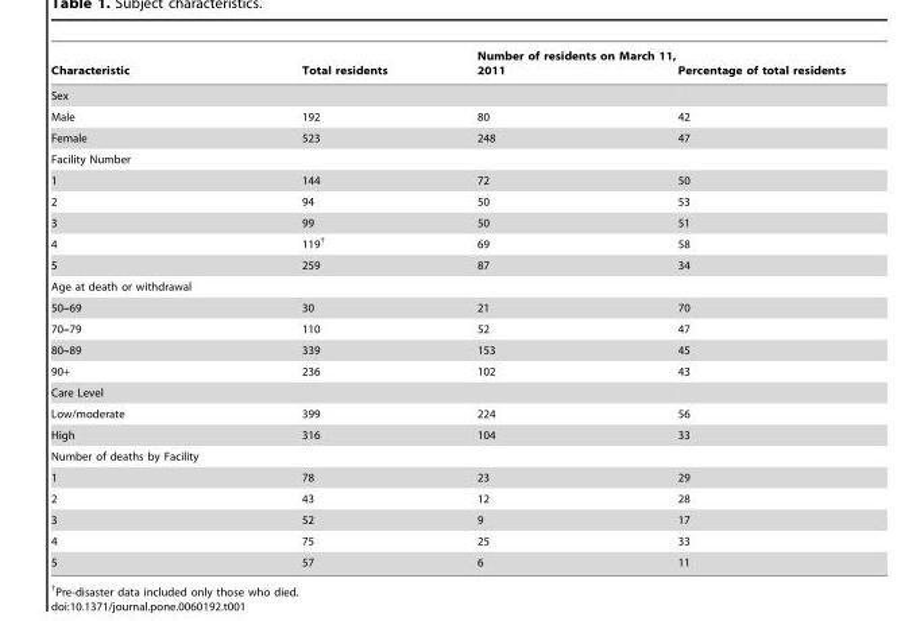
<table><thead><tr><td>Characteristic</td><td>Total residents</td><td>Number of residents on March 11, 2011</td><td>Percentage of total residents</td></tr></thead><tbody><tr><td colspan="4">Sex</td></tr><tr><td>Male</td><td>192</td><td>80</td><td>42</td></tr><tr><td>Female</td><td>523</td><td>248</td><td>47</td></tr><tr><td colspan="4">Facility Number</td></tr><tr><td>1</td><td>144</td><td>72</td><td>50</td></tr><tr><td>2</td><td>94</td><td>50</td><td>53</td></tr><tr><td>3</td><td>99</td><td>50</td><td>51</td></tr><tr><td>4</td><td>119†</td><td>69</td><td>58</td></tr><tr><td>5</td><td>259</td><td>87</td><td>34</td></tr><tr><td colspan="4">Age at death or withdrawal</td></tr><tr><td>50–69</td><td>30</td><td>21</td><td>70</td></tr><tr><td>70–79</td><td>110</td><td>52</td><td>47</td></tr><tr><td>80–89</td><td>339</td><td>153</td><td>45</td></tr><tr><td>90+</td><td>236</td><td>102</td><td>43</td></tr><tr><td colspan="4">Care Level</td></tr><tr><td>Low/moderate</td><td>399</td><td>224</td><td>56</td></tr><tr><td>High</td><td>316</td><td>104</td><td>33</td></tr><tr><td colspan="4">Number of deaths by Facility</td></tr><tr><td>1</td><td>78</td><td>23</td><td>29</td></tr><tr><td>2</td><td>43</td><td>12</td><td>28</td></tr><tr><td>3</td><td>52</td><td>9</td><td>17</td></tr><tr><td>4</td><td>75</td><td>25</td><td>33</td></tr><tr><td>5</td><td>57</td><td>6</td><td>11</td></tr></tbody></table>